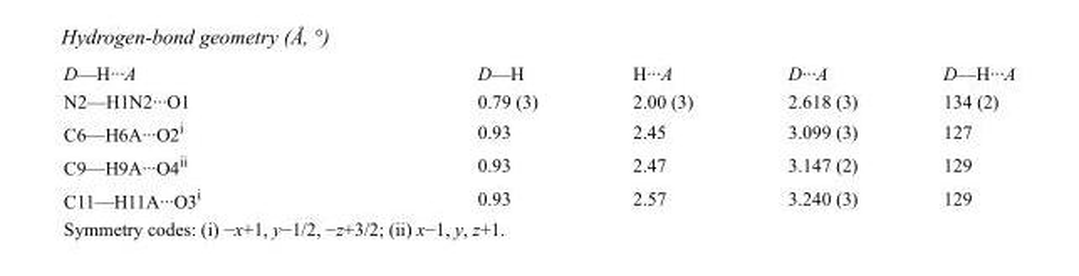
<table><tbody><tr><td>D—H···A</td><td>D—H</td><td>H···A</td><td>D···A</td><td>D—H···A</td></tr><tr><td>N2—H1N2···O1</td><td>0.79 (3)</td><td>2.00 (3)</td><td>2.618 (3)</td><td>134 (2)</td></tr><tr><td>C6—H6A···O2<sup>i</sup></td><td>0.93</td><td>2.45</td><td>3.099 (3)</td><td>127</td></tr><tr><td>C9—H9A···O4<sup>ii</sup></td><td>0.93</td><td>2.47</td><td>3.147 (2)</td><td>129</td></tr><tr><td>C11—H11A···O3<sup>i</sup></td><td>0.93</td><td>2.57</td><td>3.240 (3)</td><td>129</td></tr></tbody></table>